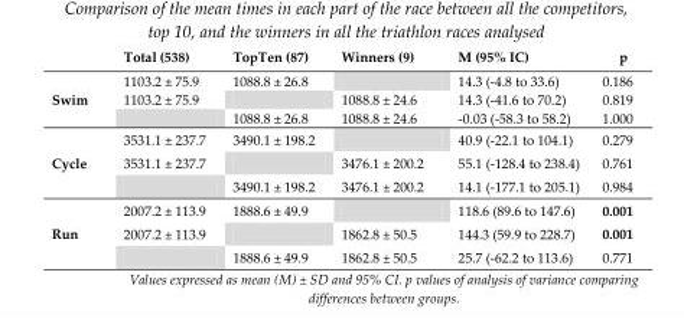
<table><thead><tr><td></td><td>Total (538)</td><td>TopTen (87)</td><td>Winners (9)</td><td>M (95% IC)</td><td>p</td></tr></thead><tbody><tr><td rowspan="3">Swim</td><td>1103.2 ± 75.9</td><td>1088.8 ± 26.8</td><td></td><td>14.3 (-4.8 to 33.6)</td><td>0.186</td></tr><tr><td>1103.2 ± 75.9</td><td></td><td>1088.8 ± 24.6</td><td>14.3 (-41.6 to 70.2)</td><td>0.819</td></tr><tr><td></td><td>1088.8 ± 26.8</td><td>1088.8 ± 24.6</td><td>-0.03 (-58.3 to 58.2)</td><td>1.000</td></tr><tr><td rowspan="3">Cycle</td><td>3531.1 ± 237.7</td><td>3490.1 ± 198.2</td><td></td><td>40.9 (-22.1 to 104.1)</td><td>0.279</td></tr><tr><td>3531.1 ± 237.7</td><td></td><td>3476.1 ± 200.2</td><td>55.1 (-128.4 to 238.4)</td><td>0.761</td></tr><tr><td></td><td>3490.1 ± 198.2</td><td>3476.1 ± 200.2</td><td>14.1 (-177.1 to 205.1)</td><td>0.984</td></tr><tr><td rowspan="3">Run</td><td>2007.2 ± 113.9</td><td>1888.6 ± 49.9</td><td></td><td>118.6 (89.6 to 147.6)</td><td>0.001</td></tr><tr><td>2007.2 ± 113.9</td><td></td><td>1862.8 ± 50.5</td><td>144.3 (59.9 to 228.7)</td><td>0.001</td></tr><tr><td></td><td>1888.6 ± 49.9</td><td>1862.8 ± 50.5</td><td>25.7 (-62.2 to 113.6)</td><td>0.771</td></tr></tbody></table>